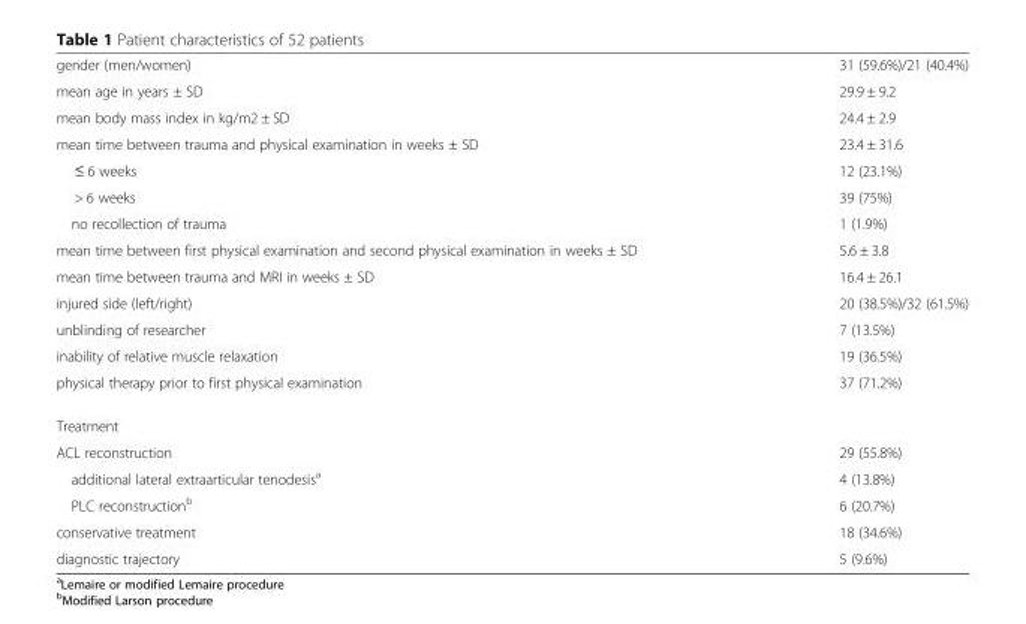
<table><tbody><tr><td>gender (men/women)</td><td>31 (59.6%)/21 (40.4%)</td></tr><tr><td>mean age in years ± SD</td><td>29.9 ± 9.2</td></tr><tr><td>mean body mass index in kg/m2 ± SD</td><td>24.4 ± 2.9</td></tr><tr><td>mean time between trauma and physical examination in weeks ± SD</td><td>23.4 ± 31.6</td></tr><tr><td>≤ 6 weeks</td><td>12 (23.1%)</td></tr><tr><td>&gt; 6 weeks</td><td>39 (75%)</td></tr><tr><td>no recollection of trauma</td><td>1 (1.9%)</td></tr><tr><td>mean time between first physical examination and second physical examination in weeks ± SD</td><td>5.6 ± 3.8</td></tr><tr><td>mean time between trauma and MRI in weeks ± SD</td><td>16.4 ± 26.1</td></tr><tr><td>injured side (left/right)</td><td>20 (38.5%)/32 (61.5%)</td></tr><tr><td>unblinding of researcher</td><td>7 (13.5%)</td></tr><tr><td>inability of relative muscle relaxation</td><td>19 (36.5%)</td></tr><tr><td>physical therapy prior to first physical examination</td><td>37 (71.2%)</td></tr><tr><td colspan="2">Treatment</td></tr><tr><td>ACL reconstruction</td><td>29 (55.8%)</td></tr><tr><td>additional lateral extraarticular tenodesis<sup>a</sup></td><td>4 (13.8%)</td></tr><tr><td>PLC reconstruction<sup>b</sup></td><td>6 (20.7%)</td></tr><tr><td>conservative treatment</td><td>18 (34.6%)</td></tr><tr><td>diagnostic trajectory</td><td>5 (9.6%)</td></tr></tbody></table>